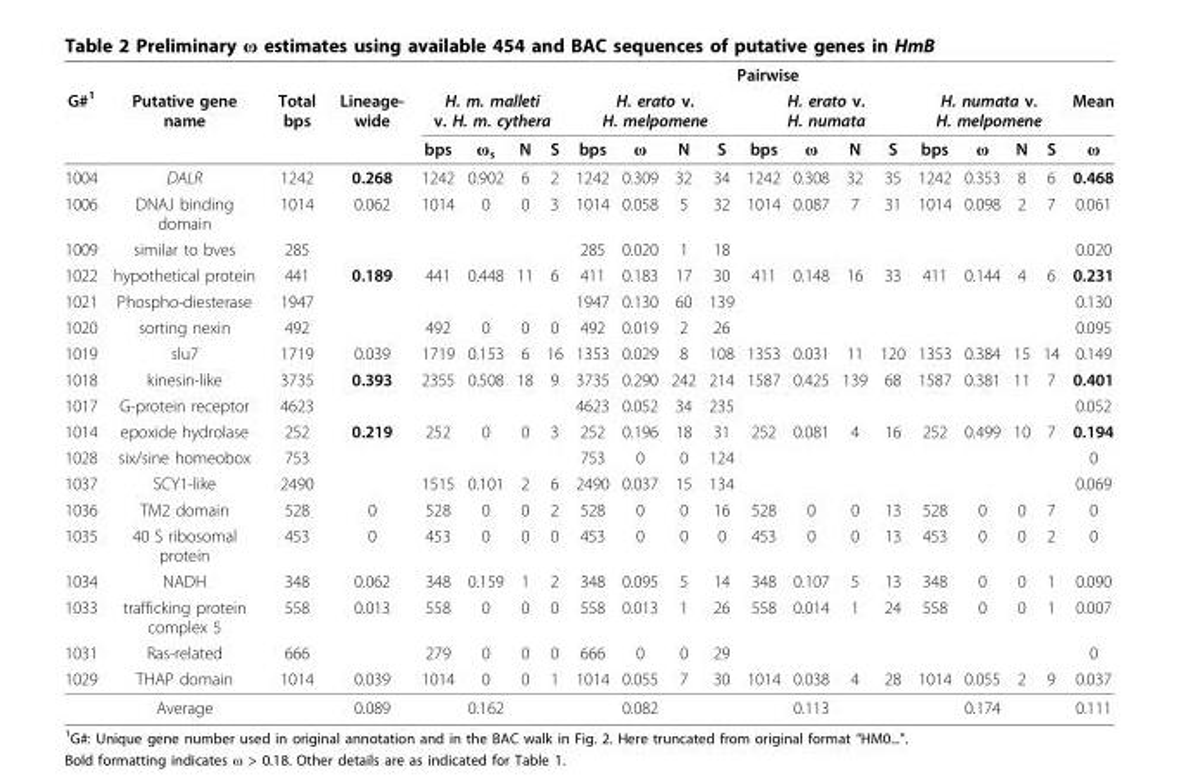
<table><thead><tr><td rowspan="3">G#<sup>1</sup></td><td rowspan="3">Putative gene name</td><td rowspan="3">Total bps</td><td rowspan="3">Lineage- wide</td><td colspan="17">Pairwise</td></tr><tr><td colspan="4">H. m. malleti v. H. m. cythera</td><td colspan="4">H. erato v. H. melpomene</td><td colspan="4">H. erato v. H. numata</td><td colspan="4">H. numata v. H. melpomene</td><td rowspan="2">Mean ω</td></tr><tr><td>bps</td><td>ω<sub>s</sub></td><td>N</td><td>S</td><td>bps</td><td>ω</td><td>N</td><td>S</td><td>bps</td><td>ω</td><td>N</td><td>S</td><td>bps</td><td>ω</td><td>N</td><td>S</td></tr></thead><tbody><tr><td>1004</td><td>DALR</td><td>1242</td><td>0.268</td><td>1242</td><td>0.902</td><td>6</td><td>2</td><td>1242</td><td>0.309</td><td>32</td><td>34</td><td>1242</td><td>0.308</td><td>32</td><td>35</td><td>1242</td><td>0.353</td><td>8</td><td>6</td><td>0.468</td></tr><tr><td>1006</td><td>DNAJ binding domain</td><td>1014</td><td>0.062</td><td>1014</td><td>0</td><td>0</td><td>3</td><td>1014</td><td>0.058</td><td>5</td><td>32</td><td>1014</td><td>0.087</td><td>7</td><td>31</td><td>1014</td><td>0.098</td><td>2</td><td>7</td><td>0.061</td></tr><tr><td>1009</td><td>similar to bves</td><td>285</td><td></td><td></td><td></td><td></td><td></td><td>285</td><td>0.020</td><td>1</td><td>18</td><td></td><td></td><td></td><td></td><td></td><td></td><td></td><td></td><td>0.020</td></tr><tr><td>1022</td><td>hypothetical protein</td><td>441</td><td>0.189</td><td>441</td><td>0.448</td><td>11</td><td>6</td><td>411</td><td>0.183</td><td>17</td><td>30</td><td>411</td><td>0.148</td><td>16</td><td>33</td><td>411</td><td>0.144</td><td>4</td><td>6</td><td>0.231</td></tr><tr><td>1021</td><td>Phospho-diesterase</td><td>1947</td><td></td><td></td><td></td><td></td><td></td><td>1947</td><td>0.130</td><td>60</td><td>139</td><td></td><td></td><td></td><td></td><td></td><td></td><td></td><td></td><td>0.130</td></tr><tr><td>1020</td><td>sorting nexin</td><td>492</td><td></td><td>492</td><td>0</td><td>0</td><td>0</td><td>492</td><td>0.019</td><td>2</td><td>26</td><td></td><td></td><td></td><td></td><td></td><td></td><td></td><td></td><td>0.095</td></tr><tr><td>1019</td><td>slu7</td><td>1719</td><td>0.039</td><td>1719</td><td>0.153</td><td>6</td><td>16</td><td>1353</td><td>0.029</td><td>8</td><td>108</td><td>1353</td><td>0.031</td><td>11</td><td>120</td><td>1353</td><td>0.384</td><td>15</td><td>14</td><td>0.149</td></tr><tr><td>1018</td><td>kinesin-like</td><td>3735</td><td>0.393</td><td>2355</td><td>0.508</td><td>18</td><td>9</td><td>3735</td><td>0.290</td><td>242</td><td>214</td><td>1587</td><td>0.425</td><td>139</td><td>68</td><td>1587</td><td>0.381</td><td>11</td><td>7</td><td>0.401</td></tr><tr><td>1017</td><td>G-protein receptor</td><td>4623</td><td></td><td></td><td></td><td></td><td></td><td>4623</td><td>0.052</td><td>34</td><td>235</td><td></td><td></td><td></td><td></td><td></td><td></td><td></td><td></td><td>0.052</td></tr><tr><td>1014</td><td>epoxide hydrolase</td><td>252</td><td>0.219</td><td>252</td><td>0</td><td>0</td><td>3</td><td>252</td><td>0.196</td><td>18</td><td>31</td><td>252</td><td>0.081</td><td>4</td><td>16</td><td>252</td><td>0.499</td><td>10</td><td>7</td><td>0.194</td></tr><tr><td>1028</td><td>six/sine homeobox</td><td>753</td><td></td><td></td><td></td><td></td><td></td><td>753</td><td>0</td><td>0</td><td>124</td><td></td><td></td><td></td><td></td><td></td><td></td><td></td><td></td><td>0</td></tr><tr><td>1037</td><td>SCY1-like</td><td>2490</td><td></td><td>1515</td><td>0.101</td><td>2</td><td>6</td><td>2490</td><td>0.037</td><td>15</td><td>134</td><td></td><td></td><td></td><td></td><td></td><td></td><td></td><td></td><td>0.069</td></tr><tr><td>1036</td><td>TM2 domain</td><td>528</td><td>0</td><td>528</td><td>0</td><td>0</td><td>2</td><td>528</td><td>0</td><td>0</td><td>16</td><td>528</td><td>0</td><td>0</td><td>13</td><td>528</td><td>0</td><td>0</td><td>7</td><td>0</td></tr><tr><td>1035</td><td>40 S ribosomal protein</td><td>453</td><td>0</td><td>453</td><td>0</td><td>0</td><td>0</td><td>453</td><td>0</td><td>0</td><td>0</td><td>453</td><td>0</td><td>0</td><td>13</td><td>453</td><td>0</td><td>0</td><td>2</td><td>0</td></tr><tr><td>1034</td><td>NADH</td><td>348</td><td>0.062</td><td>348</td><td>0.159</td><td>1</td><td>2</td><td>348</td><td>0.095</td><td>5</td><td>14</td><td>348</td><td>0.107</td><td>5</td><td>13</td><td>348</td><td>0</td><td>0</td><td>1</td><td>0.090</td></tr><tr><td>1033</td><td>trafficking protein complex 5</td><td>558</td><td>0.013</td><td>558</td><td>0</td><td>0</td><td>0</td><td>558</td><td>0.013</td><td>1</td><td>26</td><td>558</td><td>0.014</td><td>1</td><td>24</td><td>558</td><td>0</td><td>0</td><td>1</td><td>0.007</td></tr><tr><td>1031</td><td>Ras-related</td><td>666</td><td></td><td>279</td><td>0</td><td>0</td><td>0</td><td>666</td><td>0</td><td>0</td><td>29</td><td></td><td></td><td></td><td></td><td></td><td></td><td></td><td></td><td>0</td></tr><tr><td rowspan="2">1029</td><td>THAP domain</td><td>1014</td><td>0.039</td><td>1014</td><td>0</td><td>0</td><td>1</td><td>1014</td><td>0.055</td><td>7</td><td>30</td><td>1014</td><td>0.038</td><td>4</td><td>28</td><td>1014</td><td>0.055</td><td>2</td><td>9</td><td>0.037</td></tr><tr><td>Average</td><td></td><td>0.089</td><td></td><td>0.162</td><td></td><td></td><td></td><td>0.082</td><td></td><td></td><td></td><td>0.113</td><td></td><td></td><td></td><td>0.174</td><td></td><td></td><td>0.111</td></tr></tbody></table>